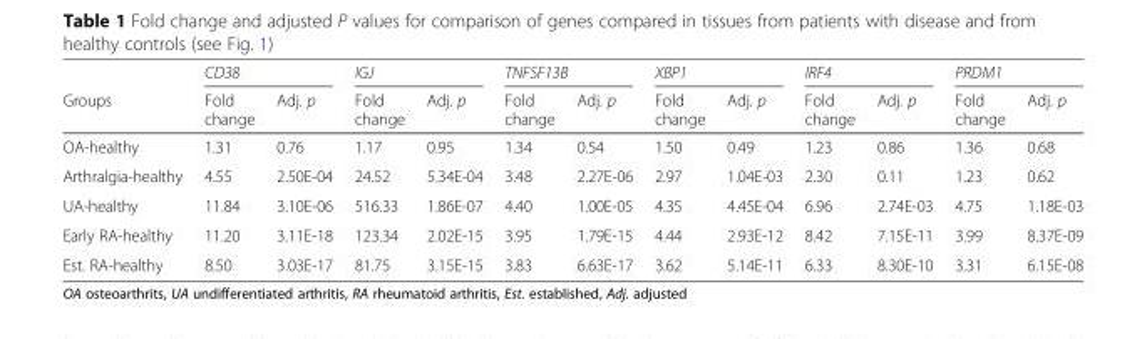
<table><thead><tr><td rowspan="2">Groups</td><td colspan="2">CD38</td><td colspan="2">IGJ</td><td colspan="2">TNFSF13B</td><td colspan="2">XBP1</td><td colspan="2">IRF4</td><td colspan="2">PRDM1</td></tr><tr><td>Fold change</td><td>Adj. p</td><td>Fold change</td><td>Adj. p</td><td>Fold change</td><td>Adj. p</td><td>Fold change</td><td>Adj. p</td><td>Fold change</td><td>Adj. p</td><td>Fold change</td><td>Adj. p</td></tr></thead><tbody><tr><td>OA-healthy</td><td>1.31</td><td>0.76</td><td>1.17</td><td>0.95</td><td>1.34</td><td>0.54</td><td>1.50</td><td>0.49</td><td>1.23</td><td>0.86</td><td>1.36</td><td>0.68</td></tr><tr><td>Arthralgia-healthy</td><td>4.55</td><td>2.50E-04</td><td>24.52</td><td>5.34E-04</td><td>3.48</td><td>2.27E-06</td><td>2.97</td><td>1.04E-03</td><td>2.30</td><td>0.11</td><td>1.23</td><td>0.62</td></tr><tr><td>UA-healthy</td><td>11.84</td><td>3.10E-06</td><td>516.33</td><td>1.86E-07</td><td>4.40</td><td>1.00E-05</td><td>4.35</td><td>4.45E-04</td><td>6.96</td><td>2.74E-03</td><td>4.75</td><td>1.18E-03</td></tr><tr><td>Early RA-healthy</td><td>11.20</td><td>3.11E-18</td><td>123.34</td><td>2.02E-15</td><td>3.95</td><td>1.79E-15</td><td>4.44</td><td>2.93E-12</td><td>8.42</td><td>7.15E-11</td><td>3.99</td><td>8.37E-09</td></tr><tr><td>Est. RA-healthy</td><td>8.50</td><td>3.03E-17</td><td>81.75</td><td>3.15E-15</td><td>3.83</td><td>6.63E-17</td><td>3.62</td><td>5.14E-11</td><td>6.33</td><td>8.30E-10</td><td>3.31</td><td>6.15E-08</td></tr></tbody></table>